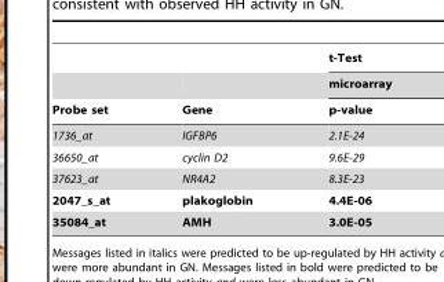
<table><thead><tr><td rowspan="3">Probe set</td><td rowspan="3">Gene</td><td rowspan="3">t-Test microarray p-value</td></tr><tr></tr><tr></tr></thead><tbody><tr><td>1736_at</td><td>IGFBP6</td><td>2.1E-24</td></tr><tr><td>36650_at</td><td>cyclin D2</td><td>9.6E-29</td></tr><tr><td>37623_at</td><td>NR4A2</td><td>8.3E-23</td></tr><tr><td>2047_s_at</td><td>plakoglobin</td><td>4.4E-06</td></tr><tr><td>35084_at</td><td>AMH</td><td>3.0E-05</td></tr></tbody></table>